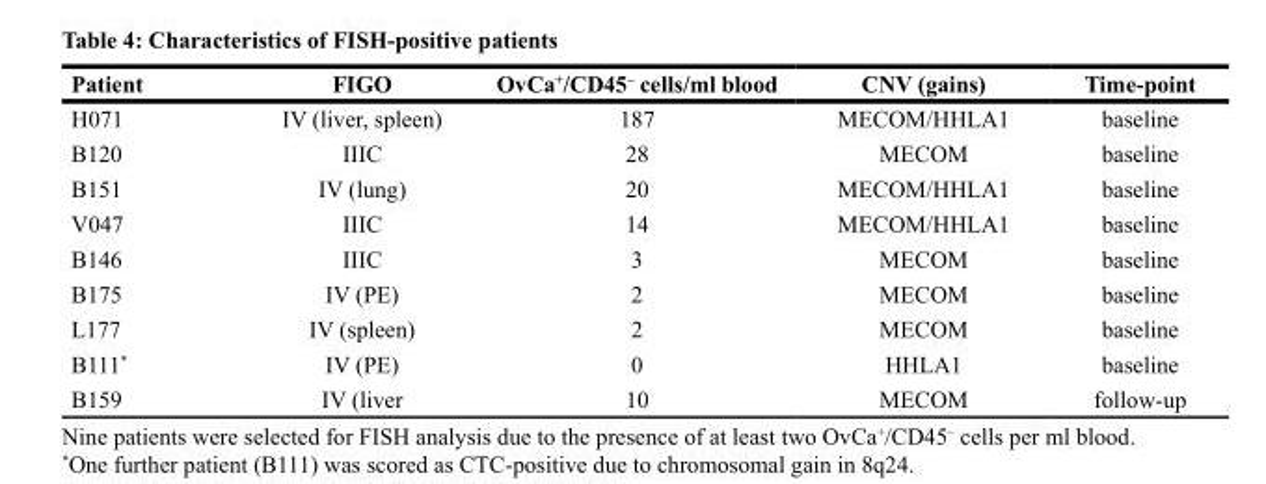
<table><thead><tr><td>Patient</td><td>FIGO</td><td>OvCa<sup>+</sup>/CD45<sup>–</sup> cells/ml blood</td><td>CNV (gains)</td><td>Time-point</td></tr></thead><tbody><tr><td>H071</td><td>IV (liver, spleen)</td><td>187</td><td>MECOM/HHLA1</td><td>baseline</td></tr><tr><td>B120</td><td>IIIC</td><td>28</td><td>MECOM</td><td>baseline</td></tr><tr><td>B151</td><td>IV (lung)</td><td>20</td><td>MECOM/HHLA1</td><td>baseline</td></tr><tr><td>V047</td><td>IIIC</td><td>14</td><td>MECOM/HHLA1</td><td>baseline</td></tr><tr><td>B146</td><td>IIIC</td><td>3</td><td>MECOM</td><td>baseline</td></tr><tr><td>B175</td><td>IV (PE)</td><td>2</td><td>MECOM</td><td>baseline</td></tr><tr><td>L177</td><td>IV (spleen)</td><td>2</td><td>MECOM</td><td>baseline</td></tr><tr><td>B111*</td><td>IV (PE)</td><td>0</td><td>HHLA1</td><td>baseline</td></tr><tr><td>B159</td><td>IV (liver</td><td>10</td><td>MECOM</td><td>follow-up</td></tr></tbody></table>